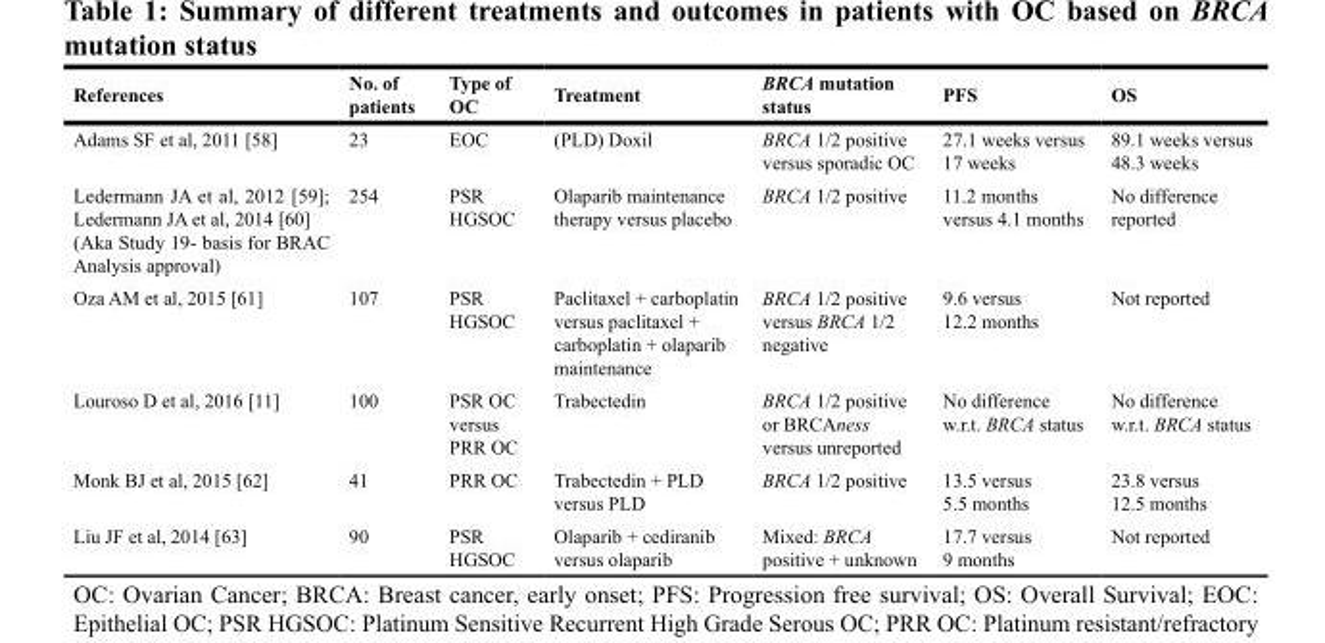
<table><thead><tr><td>References</td><td>No. of patients</td><td>Type of OC</td><td>Treatment</td><td>BRCA mutation status</td><td>PFS</td><td>OS</td></tr></thead><tbody><tr><td>Adams SF et al, 2011 [58]</td><td>23</td><td>EOC</td><td>(PLD) Doxil</td><td>BRCA 1/2 positive versus sporadic OC</td><td>27.1 weeks versus 17 weeks</td><td>89.1 weeks versus 48.3 weeks</td></tr><tr><td>Ledermann JA et al, 2012 [59]; Ledermann JA et al, 2014 [60] (Aka Study 19- basis for BRAC Analysis approval)</td><td>254</td><td>PSR HGSOC</td><td>Olaparib maintenance therapy versus placebo</td><td>BRCA 1/2 positive</td><td>11.2 months versus 4.1 months</td><td>No difference reported</td></tr><tr><td>Oza AM et al, 2015 [61]</td><td>107</td><td>PSR HGSOC</td><td>Paclitaxel + carboplatin versus paclitaxel + carboplatin + olaparib maintenance</td><td>BRCA 1/2 positive versus BRCA 1/2 negative</td><td>9.6 versus 12.2 months</td><td>Not reported</td></tr><tr><td>Louroso D et al, 2016 [11]</td><td>100</td><td>PSR OC versus PRR OC</td><td>Trabectedin</td><td>BRCA 1/2 positive or BRCAness versus unreported</td><td>No difference w.r.t. BRCA status</td><td>No difference w.r.t. BRCA status</td></tr><tr><td>Monk BJ et al, 2015 [62]</td><td>41</td><td>PRR OC</td><td>Trabectedin + PLD versus PLD</td><td>BRCA 1/2 positive</td><td>13.5 versus 5.5 months</td><td>23.8 versus 12.5 months</td></tr><tr><td>Liu JF et al, 2014 [63]</td><td>90</td><td>PSR HGSOC</td><td>Olaparib + cediranib versus olaparib</td><td>Mixed: BRCA positive + unknown</td><td>17.7 versus 9 months</td><td>Not reported</td></tr></tbody></table>